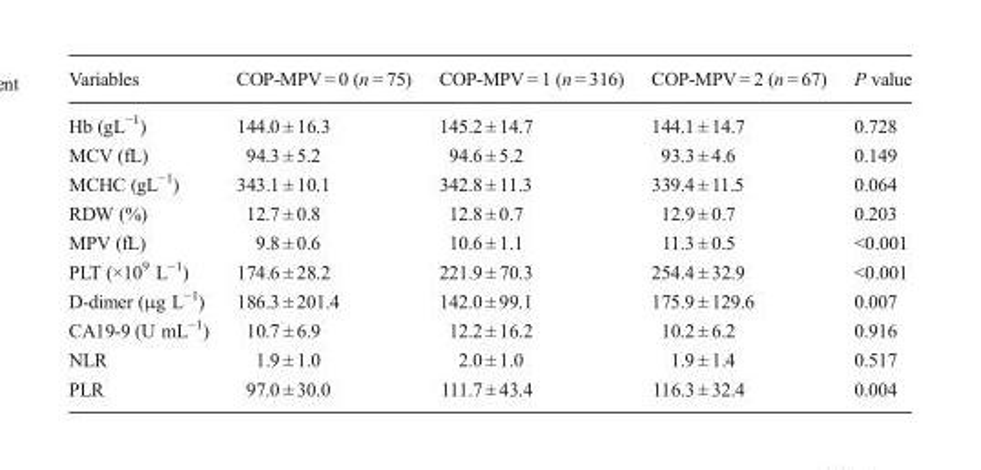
<table><thead><tr><td>Variables</td><td>COP-MPV = 0 (n = 75)</td><td>COP-MPV = 1 (n = 316)</td><td>COP-MPV = 2 (n = 67)</td><td>P value</td></tr></thead><tbody><tr><td>Hb (gL<sup>−1</sup>)</td><td>144.0 ± 16.3</td><td>145.2 ± 14.7</td><td>144.1 ± 14.7</td><td>0.728</td></tr><tr><td>MCV (fL)</td><td>94.3 ± 5.2</td><td>94.6 ± 5.2</td><td>93.3 ± 4.6</td><td>0.149</td></tr><tr><td>MCHC (gL<sup>−1</sup>)</td><td>343.1 ± 10.1</td><td>342.8 ± 11.3</td><td>339.4 ± 11.5</td><td>0.064</td></tr><tr><td>RDW (%)</td><td>12.7 ± 0.8</td><td>12.8 ± 0.7</td><td>12.9 ± 0.7</td><td>0.203</td></tr><tr><td>MPV (fL)</td><td>9.8 ± 0.6</td><td>10.6 ± 1.1</td><td>11.3 ± 0.5</td><td>&lt;0.001</td></tr><tr><td>PLT (×10<sup>9</sup> L<sup>−1</sup>)</td><td>174.6 ± 28.2</td><td>221.9 ± 70.3</td><td>254.4 ± 32.9</td><td>&lt;0.001</td></tr><tr><td>D-dimer (μg L<sup>−1</sup>)</td><td>186.3 ± 201.4</td><td>142.0 ± 99.1</td><td>175.9 ± 129.6</td><td>0.007</td></tr><tr><td>CA19-9 (U mL<sup>−1</sup>)</td><td>10.7 ± 6.9</td><td>12.2 ± 16.2</td><td>10.2 ± 6.2</td><td>0.916</td></tr><tr><td>NLR</td><td>1.9 ± 1.0</td><td>2.0 ± 1.0</td><td>1.9 ± 1.4</td><td>0.517</td></tr><tr><td>PLR</td><td>97.0 ± 30.0</td><td>111.7 ± 43.4</td><td>116.3 ± 32.4</td><td>0.004</td></tr></tbody></table>